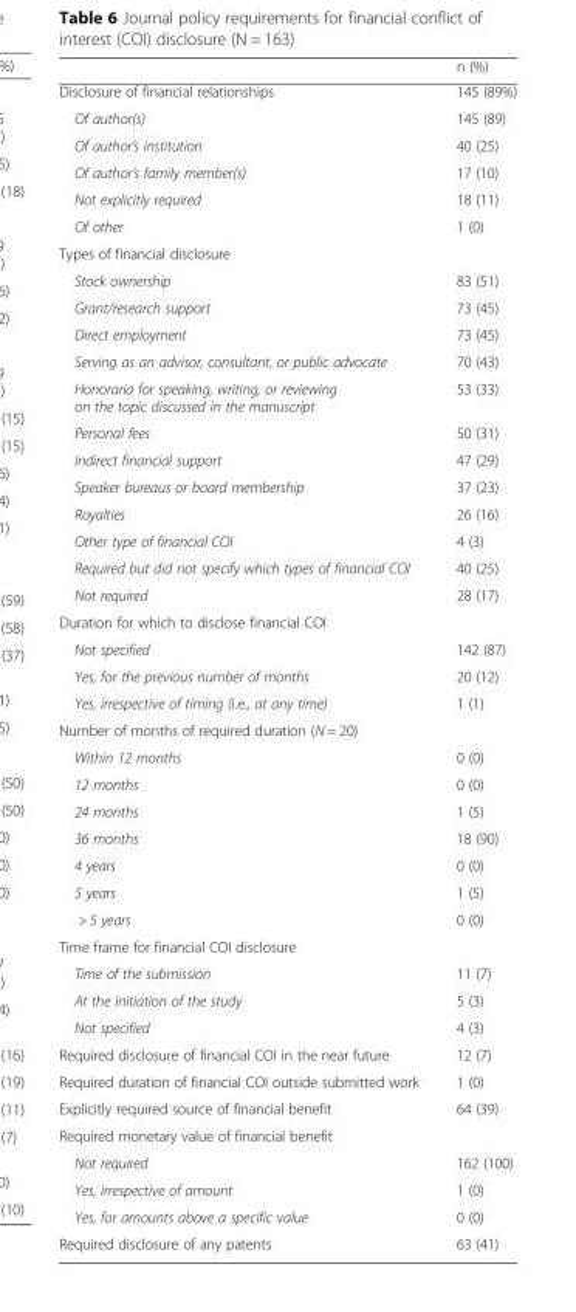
<table><thead><tr><td></td><td>n (%)</td></tr></thead><tbody><tr><td>Disclosure of financial relationships</td><td>145 (89%)</td></tr><tr><td>Of author(s)</td><td>145 (89)</td></tr><tr><td>Of author’s institution</td><td>40 (25)</td></tr><tr><td>Of author’s family member(s)</td><td>17 (10)</td></tr><tr><td>Not explicitly required</td><td>18 (11)</td></tr><tr><td>Of other</td><td>1 (0)</td></tr><tr><td colspan="2">Types of financial disclosure</td></tr><tr><td>Stock ownership</td><td>83 (51)</td></tr><tr><td>Grant/research support</td><td>73 (45)</td></tr><tr><td>Direct employment</td><td>73 (45)</td></tr><tr><td>Serving as an advisor, consultant, or public advocate</td><td>70 (43)</td></tr><tr><td>Honoraria for speaking, writing, or reviewing on the topic discussed in the manuscript</td><td>53 (33)</td></tr><tr><td>Personal fees</td><td>50 (31)</td></tr><tr><td>Indirect financial support</td><td>47 (29)</td></tr><tr><td>Speaker bureaus or board membership</td><td>37 (23)</td></tr><tr><td>Royalties</td><td>26 (16)</td></tr><tr><td>Other type of financial COI</td><td>4 (3)</td></tr><tr><td>Required but did not specify which types of financial COI</td><td>40 (25)</td></tr><tr><td>Not required</td><td>28 (17)</td></tr><tr><td colspan="2">Duration for which to disclose financial COI</td></tr><tr><td>Not specified</td><td>142 (87)</td></tr><tr><td>Yes, for the previous number of months</td><td>20 (12)</td></tr><tr><td>Yes, irrespective of timing (i.e., at any time)</td><td>1 (1)</td></tr><tr><td colspan="2">Number of months of required duration (N = 20)</td></tr><tr><td>Within 12 months</td><td>0 (0)</td></tr><tr><td>12 months</td><td>0 (0)</td></tr><tr><td>24 months</td><td>1 (5)</td></tr><tr><td>36 months</td><td>18 (90)</td></tr><tr><td>4 years</td><td>0 (0)</td></tr><tr><td>5 years</td><td>1 (5)</td></tr><tr><td>&gt; 5 years</td><td>0 (0)</td></tr><tr><td colspan="2">Time frame for financial COI disclosure</td></tr><tr><td>Time of the submission</td><td>11 (7)</td></tr><tr><td>At the initiation of the study</td><td>5 (3)</td></tr><tr><td>Not specified</td><td>4 (3)</td></tr><tr><td>Required disclosure of financial COI in the near future</td><td>12 (7)</td></tr><tr><td>Required duration of financial COI outside submitted work</td><td>1 (0)</td></tr><tr><td>Explicitly required source of financial benefit</td><td>64 (39)</td></tr><tr><td colspan="2">Required monetary value of financial benefit</td></tr><tr><td>Not required</td><td>162 (100)</td></tr><tr><td>Yes, irrespective of amount</td><td>1 (0)</td></tr><tr><td>Yes, for amounts above a specific value</td><td>0 (0)</td></tr><tr><td>Required disclosure of any patents</td><td>63 (41)</td></tr></tbody></table>